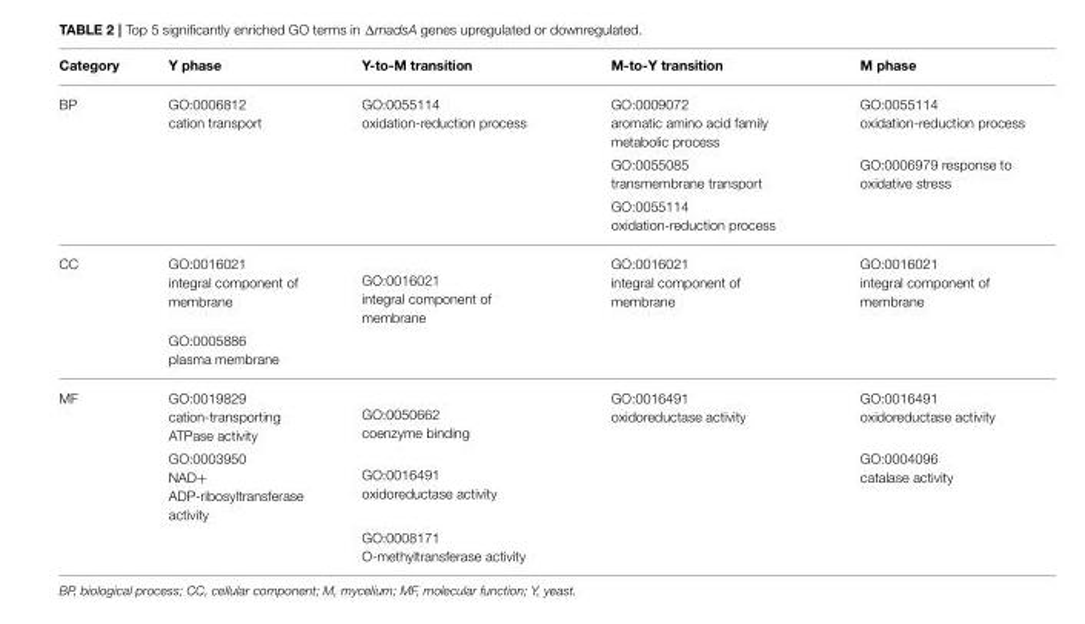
<table><thead><tr><td>Category</td><td>Y phase</td><td>Y-to-M transition</td><td>M-to-Y transition</td><td>M phase</td></tr></thead><tbody><tr><td rowspan="3">BP</td><td>GO:0006812 cation transport</td><td>GO:0055114 oxidation-reduction process</td><td>GO:0009072 aromatic amino acid family metabolic process</td><td>GO:0055114 oxidation-reduction process</td></tr><tr><td></td><td></td><td>GO:0055085 transmembrane transport</td><td>GO:0006979 response to oxidative stress</td></tr><tr><td></td><td></td><td>GO:0055114 oxidation-reduction process</td><td></td></tr><tr><td rowspan="2">CC</td><td>GO:0016021 integral component of membrane</td><td>GO:0016021 integral component of membrane</td><td>GO:0016021 integral component of membrane</td><td>GO:0016021 integral component of membrane</td></tr><tr><td>GO:0005886 plasma membrane</td><td></td><td></td><td></td></tr><tr><td rowspan="3">MF</td><td>GO:0019829 cation-transporting ATPase activity</td><td>GO:0050662 coenzyme binding</td><td>GO:0016491 oxidoreductase activity</td><td>GO:0016491 oxidoreductase activity</td></tr><tr><td>GO:0003950 NAD+ ADP-ribosyltransferase activity</td><td>GO:0016491 oxidoreductase activity</td><td></td><td>GO:0004096 catalase activity</td></tr><tr><td></td><td>GO:0008171 O-methyltransferase activity</td><td></td><td></td></tr></tbody></table>